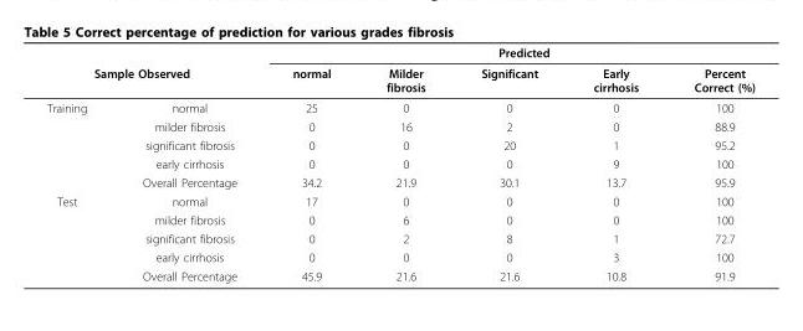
<table><thead><tr><td></td><td></td><td colspan="5">Predicted</td></tr><tr><td colspan="2">Sample Observed</td><td>normal</td><td>Milder fibrosis</td><td>Significant</td><td>Early cirrhosis</td><td>Percent Correct (%)</td></tr></thead><tbody><tr><td rowspan="5">Training</td><td>normal</td><td>25</td><td>0</td><td>0</td><td>0</td><td>100</td></tr><tr><td>milder fibrosis</td><td>0</td><td>16</td><td>2</td><td>0</td><td>88.9</td></tr><tr><td>significant fibrosis</td><td>0</td><td>0</td><td>20</td><td>1</td><td>95.2</td></tr><tr><td>early cirrhosis</td><td>0</td><td>0</td><td>0</td><td>9</td><td>100</td></tr><tr><td>Overall Percentage</td><td>34.2</td><td>21.9</td><td>30.1</td><td>13.7</td><td>95.9</td></tr><tr><td rowspan="5">Test</td><td>normal</td><td>17</td><td>0</td><td>0</td><td>0</td><td>100</td></tr><tr><td>milder fibrosis</td><td>0</td><td>6</td><td>0</td><td>0</td><td>100</td></tr><tr><td>significant fibrosis</td><td>0</td><td>2</td><td>8</td><td>1</td><td>72.7</td></tr><tr><td>early cirrhosis</td><td>0</td><td>0</td><td>0</td><td>3</td><td>100</td></tr><tr><td>Overall Percentage</td><td>45.9</td><td>21.6</td><td>21.6</td><td>10.8</td><td>91.9</td></tr></tbody></table>